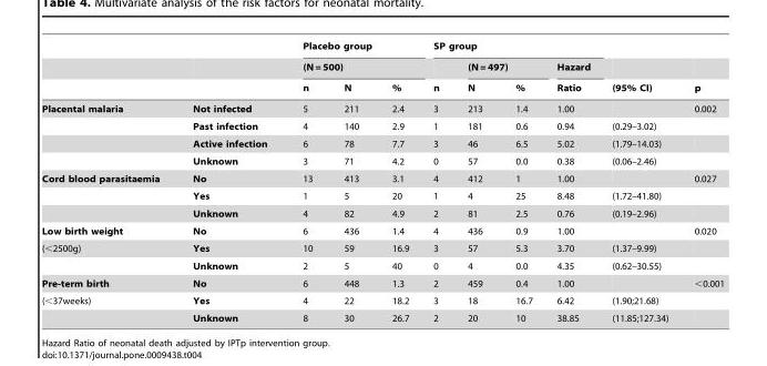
<table><thead><tr><td rowspan="3"></td><td rowspan="3"></td><td rowspan="2" colspan="3">Placebo group (N = 500)</td><td colspan="4">SP group</td><td rowspan="3">(95% CI)</td><td rowspan="3">p</td></tr><tr><td rowspan="2">n</td><td colspan="2">(N = 497)</td><td rowspan="2">Hazard Ratio</td></tr><tr><td>n</td><td>N</td><td>%</td><td>N</td><td>%</td></tr></thead><tbody><tr><td rowspan="4">Placental malaria</td><td>Not infected</td><td>5</td><td>211</td><td>2.4</td><td>3</td><td>213</td><td>1.4</td><td>1.00</td><td></td><td>0.002</td></tr><tr><td>Past infection</td><td>4</td><td>140</td><td>2.9</td><td>1</td><td>181</td><td>0.6</td><td>0.94</td><td>(0.29–3.02)</td><td></td></tr><tr><td>Active infection</td><td>6</td><td>78</td><td>7.7</td><td>3</td><td>46</td><td>6.5</td><td>5.02</td><td>(1.79–14.03)</td><td></td></tr><tr><td>Unknown</td><td>3</td><td>71</td><td>4.2</td><td>0</td><td>57</td><td>0.0</td><td>0.38</td><td>(0.06–2.46)</td><td></td></tr><tr><td rowspan="3">Cord blood parasitaemia</td><td>No</td><td>13</td><td>413</td><td>3.1</td><td>4</td><td>412</td><td>1</td><td>1.00</td><td></td><td>0.027</td></tr><tr><td>Yes</td><td>1</td><td>5</td><td>20</td><td>1</td><td>4</td><td>25</td><td>8.48</td><td>(1.72–41.80)</td><td></td></tr><tr><td>Unknown</td><td>4</td><td>82</td><td>4.9</td><td>2</td><td>81</td><td>2.5</td><td>0.76</td><td>(0.19–2.96)</td><td></td></tr><tr><td>Low birth weight</td><td>No</td><td>6</td><td>436</td><td>1.4</td><td>4</td><td>436</td><td>0.9</td><td>1.00</td><td></td><td>0.020</td></tr><tr><td rowspan="2">(&lt;2500g)</td><td>Yes</td><td>10</td><td>59</td><td>16.9</td><td>3</td><td>57</td><td>5.3</td><td>3.70</td><td>(1.37–9.99)</td><td></td></tr><tr><td>Unknown</td><td>2</td><td>5</td><td>40</td><td>0</td><td>4</td><td>0.0</td><td>4.35</td><td>(0.62–30.55)</td><td></td></tr><tr><td>Pre-term birth</td><td>No</td><td>6</td><td>448</td><td>1.3</td><td>2</td><td>459</td><td>0.4</td><td>1.00</td><td></td><td>&lt;0.001</td></tr><tr><td rowspan="2">(&lt;37weeks)</td><td>Yes</td><td>4</td><td>22</td><td>18.2</td><td>3</td><td>18</td><td>16.7</td><td>6.42</td><td>(1.90;21.68)</td><td></td></tr><tr><td>Unknown</td><td>8</td><td>30</td><td>26.7</td><td>2</td><td>20</td><td>10</td><td>38.85</td><td>(11.85;127.34)</td><td></td></tr></tbody></table>